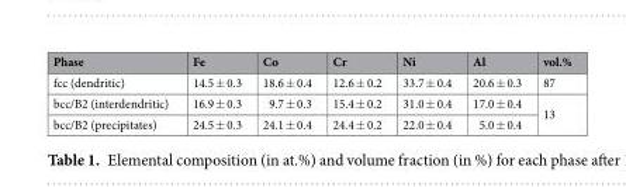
<table><thead><tr><td>Phase</td><td>Fe</td><td>Co</td><td>Cr</td><td>Ni</td><td>Al</td><td>vol.%</td></tr></thead><tbody><tr><td>fcc (dendritic)</td><td>14.5 ± 0.3</td><td>18.6 ± 0.4</td><td>12.6 ± 0.2</td><td>33.7 ± 0.4</td><td>20.6 ± 0.3</td><td>87</td></tr><tr><td>bcc/B2 (interdendritic)</td><td>16.9 ± 0.3</td><td>9.7 ± 0.3</td><td>15.4 ± 0.2</td><td>31.0 ± 0.4</td><td>17.0 ± 0.4</td><td rowspan="2">13</td></tr><tr><td>bcc/B2 (precipitates)</td><td>24.5 ± 0.3</td><td>24.1 ± 0.4</td><td>24.4 ± 0.2</td><td>22.0 ± 0.4</td><td>5.0 ± 0.4</td></tr></tbody></table>